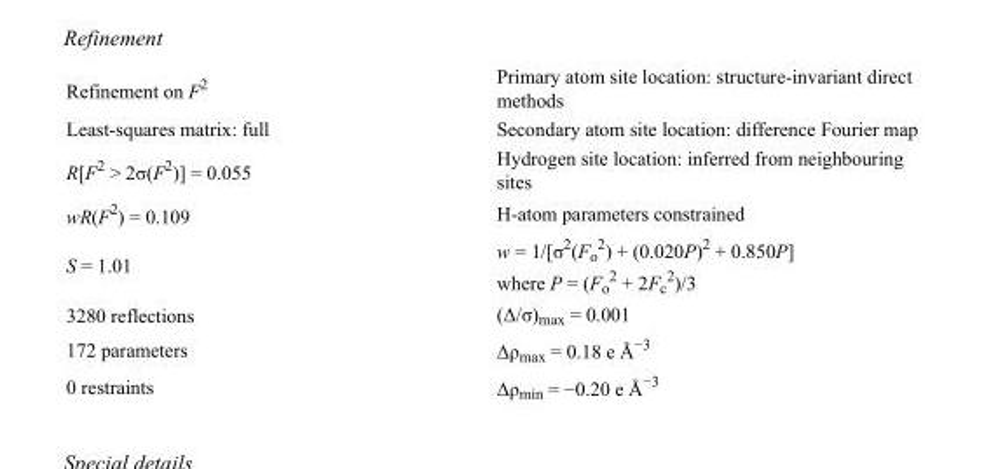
<table><tbody><tr><td>Refinement on F<sup>2</sup></td><td>Primary atom site location: structure-invariant direct methods</td></tr><tr><td>Least-squares matrix: full</td><td>Secondary atom site location: difference Fourier map</td></tr><tr><td>R[F<sup>2</sup> &gt; 2σ(F<sup>2</sup>)] = 0.055</td><td>Hydrogen site location: inferred from neighbouring sites</td></tr><tr><td>wR(F<sup>2</sup>) = 0.109</td><td>H-atom parameters constrained</td></tr><tr><td>S = 1.01</td><td>w = 1/[σ<sup>2</sup>(F<sub>o</sub> <sup>2</sup>) + (0.020P)<sup>2</sup> + 0.850P] where P = (F<sub>o</sub> <sup>2</sup> + 2F<sub>c</sub> <sup>2</sup>)/3</td></tr><tr><td>3280 reflections</td><td>(Δ/σ)<sub>max</sub> = 0.001</td></tr><tr><td>172 parameters</td><td>Δρ<sub>max</sub> = 0.18 e Å<sup>−3</sup></td></tr><tr><td>0 restraints</td><td>Δρ<sub>min</sub> = −0.20 e Å<sup>−3</sup></td></tr></tbody></table>